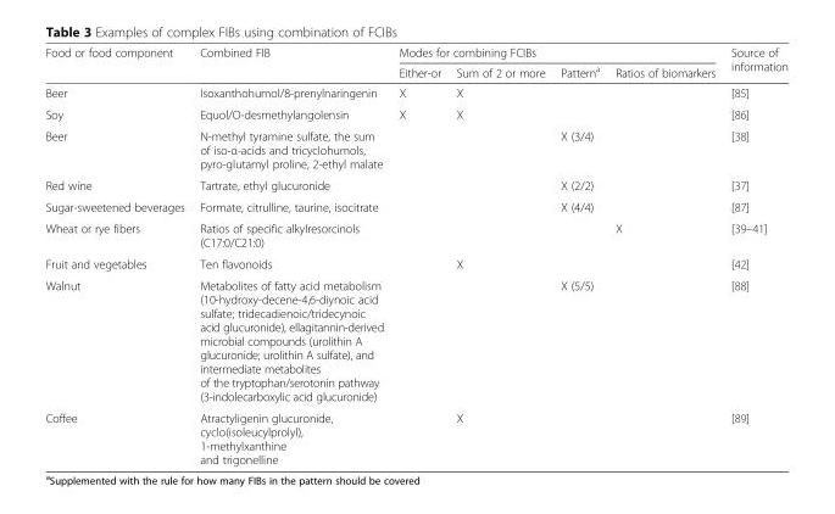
<table><thead><tr><td rowspan="2">Food or food component</td><td rowspan="2">Combined FIB</td><td colspan="4">Modes for combining FCIBs</td><td rowspan="2">Source of information</td></tr><tr><td>Either-or</td><td>Sum of 2 or more</td><td>Pattern<sup>a</sup></td><td>Ratios of biomarkers</td></tr></thead><tbody><tr><td>Beer</td><td>Isoxanthohumol/8-prenylnaringenin</td><td>X</td><td>X</td><td></td><td></td><td>[85]</td></tr><tr><td>Soy</td><td>Equol/O-desmethylangolensin</td><td>X</td><td>X</td><td></td><td></td><td>[86]</td></tr><tr><td>Beer</td><td>N-methyl tyramine sulfate, the sum of iso-α-acids and tricyclohumols, pyro-glutamyl proline, 2-ethyl malate</td><td></td><td></td><td>X (3/4)</td><td></td><td>[38]</td></tr><tr><td>Red wine</td><td>Tartrate, ethyl glucuronide</td><td></td><td></td><td>X (2/2)</td><td></td><td>[37]</td></tr><tr><td>Sugar-sweetened beverages</td><td>Formate, citrulline, taurine, isocitrate</td><td></td><td></td><td>X (4/4)</td><td></td><td>[87]</td></tr><tr><td>Wheat or rye fibers</td><td>Ratios of specific alkylresorcinols (C17:0/C21:0)</td><td></td><td></td><td></td><td>X</td><td>[39–41]</td></tr><tr><td>Fruit and vegetables</td><td>Ten flavonoids</td><td></td><td>X</td><td></td><td></td><td>[42]</td></tr><tr><td>Walnut</td><td>Metabolites of fatty acid metabolism (10-hydroxy-decene-4,6-diynoic acid sulfate; tridecadienoic/tridecynoic acid glucuronide), ellagitannin-derived microbial compounds (urolithin A glucuronide; urolithin A sulfate), and intermediate metabolites of the tryptophan/serotonin pathway (3-indolecarboxylic acid glucuronide)</td><td></td><td></td><td>X (5/5)</td><td></td><td>[88]</td></tr><tr><td>Coffee</td><td>Atractyligenin glucuronide, cyclo(isoleucylprolyl), 1-methylxanthine and trigonelline</td><td></td><td>X</td><td></td><td></td><td>[89]</td></tr></tbody></table>